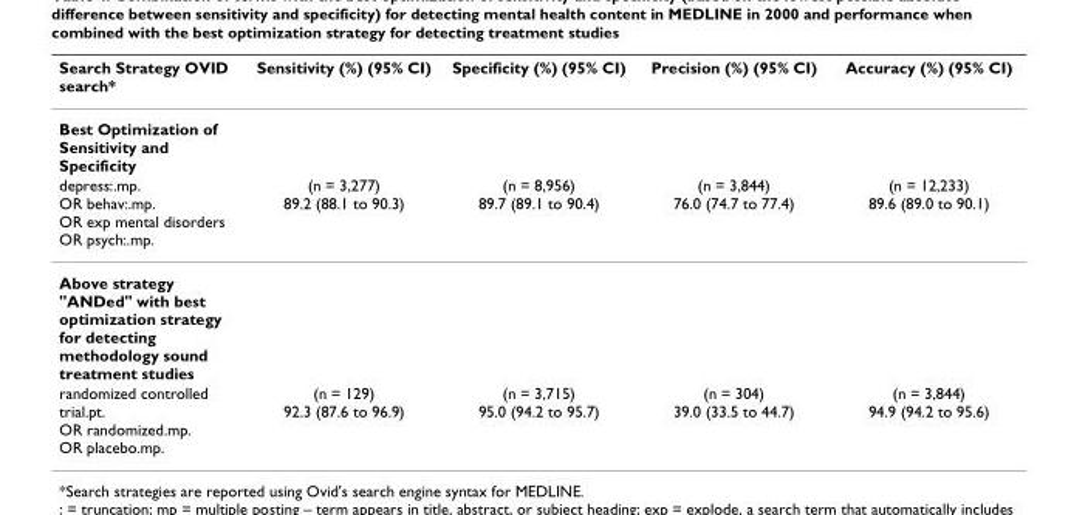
<table><thead><tr><td>Search Strategy OVID search*</td><td>Sensitivity (%) (95% CI)</td><td>Specificity (%) (95% CI)</td><td>Precision (%) (95% CI)</td><td>Accuracy (%) (95% CI)</td></tr></thead><tbody><tr><td colspan="5">Best Optimization of Sensitivity and Specificity</td></tr><tr><td>depress:.mp. OR behav:.mp. OR exp mental disorders OR psych:.mp.</td><td>(n = 3,277) 89.2 (88.1 to 90.3)</td><td>(n = 8,956) 89.7 (89.1 to 90.4)</td><td>(n = 3,844) 76.0 (74.7 to 77.4)</td><td>(n = 12,233) 89.6 (89.0 to 90.1)</td></tr><tr><td colspan="5">Above strategy &quot;ANDed&quot; with best optimization strategy for detecting methodology sound treatment studies</td></tr><tr><td>randomized controlled trial.pt. OR randomized.mp. OR placebo.mp.</td><td>(n = 129) 92.3 (87.6 to 96.9)</td><td>(n = 3,715) 95.0 (94.2 to 95.7)</td><td>(n = 304) 39.0 (33.5 to 44.7)</td><td>(n = 3,844) 94.9 (94.2 to 95.6)</td></tr></tbody></table>